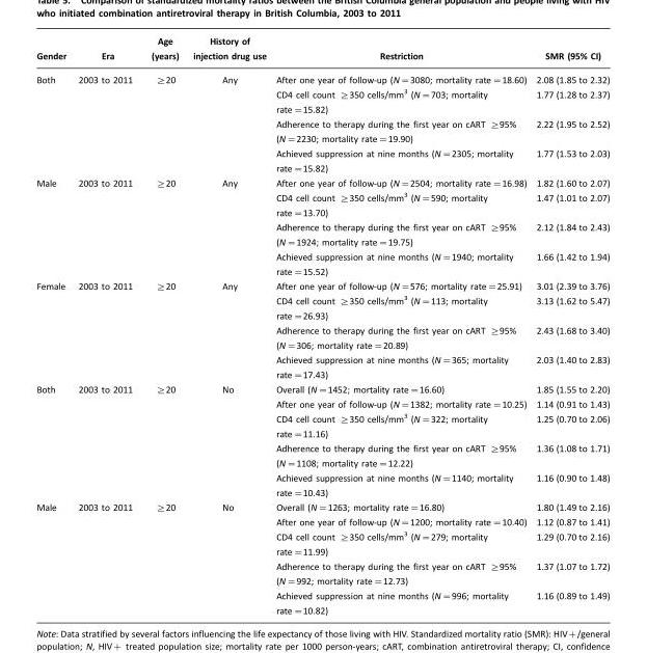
<table><thead><tr><td>Gender</td><td>Era</td><td>Age (years)</td><td>History of injection drug use</td><td>Restriction</td><td>SMR (95% CI)</td></tr></thead><tbody><tr><td rowspan="4">Both</td><td>2003 to 2011</td><td>≥20</td><td>Any</td><td>After one year of follow-up (N=3080; mortality rate=18.60)</td><td>2.08 (1.85 to 2.32)</td></tr><tr><td></td><td></td><td></td><td>CD4 cell count ≥350 cells/mm<sup>3</sup> (N=703; mortality rate=15.82)</td><td>1.77 (1.28 to 2.37)</td></tr><tr><td></td><td></td><td></td><td>Adherence to therapy during the first year on cART ≥95% (N=2230; mortality rate=19.90)</td><td>2.22 (1.95 to 2.52)</td></tr><tr><td></td><td></td><td></td><td>Achieved suppression at nine months (N=2305; mortality rate=15.82)</td><td>1.77 (1.53 to 2.03)</td></tr><tr><td rowspan="4">Male</td><td>2003 to 2011</td><td>≥20</td><td>Any</td><td>After one year of follow-up (N=2504; mortality rate=16.98)</td><td>1.82 (1.60 to 2.07)</td></tr><tr><td></td><td></td><td></td><td>CD4 cell count ≥350 cells/mm<sup>3</sup> (N=590; mortality rate=13.70)</td><td>1.47 (1.01 to 2.07)</td></tr><tr><td></td><td></td><td></td><td>Adherence to therapy during the first year on cART ≥95% (N=1924; mortality rate=19.75)</td><td>2.12 (1.84 to 2.43)</td></tr><tr><td></td><td></td><td></td><td>Achieved suppression at nine months (N=1940; mortality rate=15.52)</td><td>1.66 (1.42 to 1.94)</td></tr><tr><td rowspan="4">Female</td><td>2003 to 2011</td><td>≥20</td><td>Any</td><td>After one year of follow-up (N=576; mortality rate=25.91)</td><td>3.01 (2.39 to 3.76)</td></tr><tr><td></td><td></td><td></td><td>CD4 cell count ≥350 cells/mm<sup>3</sup> (N=113; mortality rate=26.93)</td><td>3.13 (1.62 to 5.47)</td></tr><tr><td></td><td></td><td></td><td>Adherence to therapy during the first year on cART ≥95% (N=306; mortality rate=20.89)</td><td>2.43 (1.68 to 3.40)</td></tr><tr><td></td><td></td><td></td><td>Achieved suppression at nine months (N=365; mortality rate=17.43)</td><td>2.03 (1.40 to 2.83)</td></tr><tr><td rowspan="5">Both</td><td>2003 to 2011</td><td>≥20</td><td>No</td><td>Overall (N=1452; mortality rate=16.60)</td><td>1.85 (1.55 to 2.20)</td></tr><tr><td></td><td></td><td></td><td>After one year of follow-up (N=1382; mortality rate=10.25)</td><td>1.14 (0.91 to 1.43)</td></tr><tr><td></td><td></td><td></td><td>CD4 cell count ≥350 cells/mm<sup>3</sup> (N=322; mortality rate=11.16)</td><td>1.25 (0.70 to 2.06)</td></tr><tr><td></td><td></td><td></td><td>Adherence to therapy during the first year on cART ≥95% (N=1108; mortality rate=12.22)</td><td>1.36 (1.08 to 1.71)</td></tr><tr><td></td><td></td><td></td><td>Achieved suppression at nine months (N=1140; mortality rate=10.43)</td><td>1.16 (0.90 to 1.48)</td></tr><tr><td rowspan="5">Male</td><td>2003 to 2011</td><td>≥20</td><td>No</td><td>Overall (N=1263; mortality rate=16.80)</td><td>1.80 (1.49 to 2.16)</td></tr><tr><td></td><td></td><td></td><td>After one year of follow-up (N=1200; mortality rate=10.40)</td><td>1.12 (0.87 to 1.41)</td></tr><tr><td></td><td></td><td></td><td>CD4 cell count ≥350 cells/mm<sup>3</sup> (N=279; mortality rate=11.99)</td><td>1.29 (0.70 to 2.16)</td></tr><tr><td></td><td></td><td></td><td>Adherence to therapy during the first year on cART ≥95% (N=992; mortality rate=12.73)</td><td>1.37 (1.07 to 1.72)</td></tr><tr><td></td><td></td><td></td><td>Achieved suppression at nine months (N=996; mortality rate=10.82)</td><td>1.16 (0.89 to 1.49)</td></tr></tbody></table>